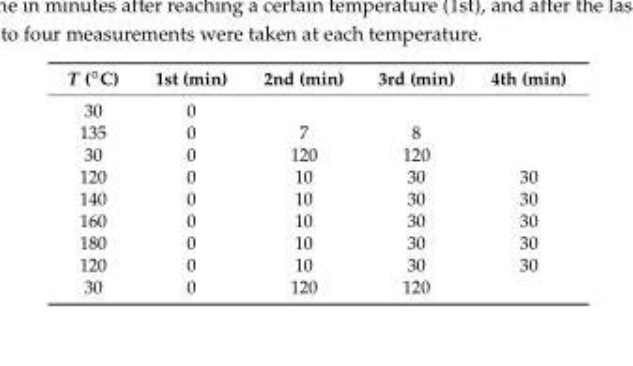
<table><thead><tr><td>T (◦C)</td><td>1st (min)</td><td>2nd (min)</td><td>3rd (min)</td><td>4th (min)</td></tr></thead><tbody><tr><td>30</td><td>0</td><td></td><td></td><td></td></tr><tr><td>135</td><td>0</td><td>7</td><td>8</td><td></td></tr><tr><td>30</td><td>0</td><td>120</td><td>120</td><td></td></tr><tr><td>120</td><td>0</td><td>10</td><td>30</td><td>30</td></tr><tr><td>140</td><td>0</td><td>10</td><td>30</td><td>30</td></tr><tr><td>160</td><td>0</td><td>10</td><td>30</td><td>30</td></tr><tr><td>180</td><td>0</td><td>10</td><td>30</td><td>30</td></tr><tr><td>120</td><td>0</td><td>10</td><td>30</td><td>30</td></tr><tr><td>30</td><td>0</td><td>120</td><td>120</td><td></td></tr></tbody></table>